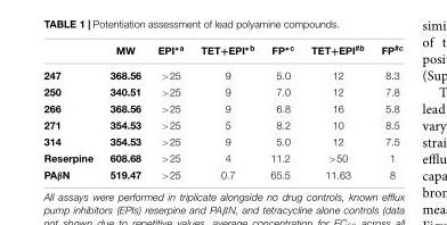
<table><thead><tr><td></td><td>MW</td><td>EPI<sup>∗a</sup></td><td>TET+EPI<sup>∗b</sup></td><td>FP<sup>∗c</sup></td><td>TET+EPI<sup>#b</sup></td><td>FP<sup>#c</sup></td></tr></thead><tbody><tr><td>247</td><td>368.56</td><td>&gt;25</td><td>9</td><td>5.0</td><td>12</td><td>8.3</td></tr><tr><td>250</td><td>340.51</td><td>&gt;25</td><td>9</td><td>7.0</td><td>12</td><td>7.8</td></tr><tr><td>266</td><td>368.56</td><td>&gt;25</td><td>9</td><td>6.8</td><td>16</td><td>5.8</td></tr><tr><td>271</td><td>354.53</td><td>&gt;25</td><td>5</td><td>8.2</td><td>10</td><td>8.5</td></tr><tr><td>314</td><td>354.53</td><td>&gt;25</td><td>9</td><td>5.0</td><td>12</td><td>7.5</td></tr><tr><td>Reserpine</td><td>608.68</td><td>&gt;25</td><td>4</td><td>11.2</td><td>&gt;50</td><td>1</td></tr><tr><td>PAβN</td><td>519.47</td><td>&gt;25</td><td>0.7</td><td>65.5</td><td>11.63</td><td>8</td></tr></tbody></table>